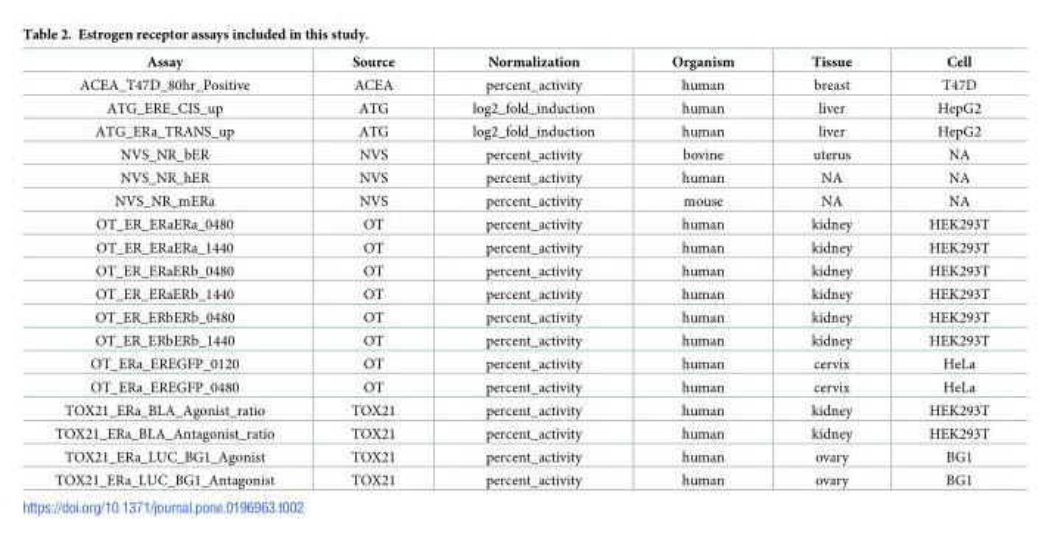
<table><thead><tr><td>Assay</td><td>Source</td><td>Normalization</td><td>Organism</td><td>Tissue</td><td>Cell</td></tr></thead><tbody><tr><td>ACEA_T47D_80hr_Positive</td><td>ACEA</td><td>percent_activity</td><td>human</td><td>breast</td><td>T47D</td></tr><tr><td>ATG_ERE_CIS_up</td><td>ATG</td><td>log2_fold_induction</td><td>human</td><td>liver</td><td>HepG2</td></tr><tr><td>ATG_ERa_TRANS_up</td><td>ATG</td><td>log2_fold_induction</td><td>human</td><td>liver</td><td>HepG2</td></tr><tr><td>NVS_NR_bER</td><td>NVS</td><td>percent_activity</td><td>bovine</td><td>uterus</td><td>NA</td></tr><tr><td>NVS_NR_hER</td><td>NVS</td><td>percent_activity</td><td>human</td><td>NA</td><td>NA</td></tr><tr><td>NVS_NR_mERa</td><td>NVS</td><td>percent_activity</td><td>mouse</td><td>NA</td><td>NA</td></tr><tr><td>OT_ER_ERaERa_0480</td><td>OT</td><td>percent_activity</td><td>human</td><td>kidney</td><td>HEK293T</td></tr><tr><td>OT_ER_ERaERa_1440</td><td>OT</td><td>percent_activity</td><td>human</td><td>kidney</td><td>HEK293T</td></tr><tr><td>OT_ER_ERaERb_0480</td><td>OT</td><td>percent_activity</td><td>human</td><td>kidney</td><td>HEK293T</td></tr><tr><td>OT_ER_ERaERb_1440</td><td>OT</td><td>percent_activity</td><td>human</td><td>kidney</td><td>HEK293T</td></tr><tr><td>OT_ER_ERbERb_0480</td><td>OT</td><td>percent_activity</td><td>human</td><td>kidney</td><td>HEK293T</td></tr><tr><td>OT_ER_ERbERb_1440</td><td>OT</td><td>percent_activity</td><td>human</td><td>kidney</td><td>HEK293T</td></tr><tr><td>OT_ERa_EREGFP_0120</td><td>OT</td><td>percent_activity</td><td>human</td><td>cervix</td><td>HeLa</td></tr><tr><td>OT_ERa_EREGFP_0480</td><td>OT</td><td>percent_activity</td><td>human</td><td>cervix</td><td>HeLa</td></tr><tr><td>TOX21_ERa_BLA_Agonist_ratio</td><td>TOX21</td><td>percent_activity</td><td>human</td><td>kidney</td><td>HEK293T</td></tr><tr><td>TOX21_ERa_BLA_Antagonist_ratio</td><td>TOX21</td><td>percent_activity</td><td>human</td><td>kidney</td><td>HEK293T</td></tr><tr><td>TOX21_ERa_LUC_BG1_Agonist</td><td>TOX21</td><td>percent_activity</td><td>human</td><td>ovary</td><td>BG1</td></tr><tr><td>TOX21_ERa_LUC_BG1_Antagonist</td><td>TOX21</td><td>percent_activity</td><td>human</td><td>ovary</td><td>BG1</td></tr></tbody></table>